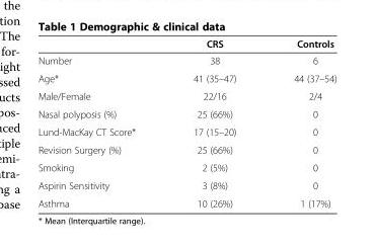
<table><thead><tr><td></td><td>CRS</td><td>Controls</td></tr></thead><tbody><tr><td>Number</td><td>38</td><td>6</td></tr><tr><td>Age*</td><td>41 (35–47)</td><td>44 (37–54)</td></tr><tr><td>Male/Female</td><td>22/16</td><td>2/4</td></tr><tr><td>Nasal polyposis (%)</td><td>25 (66%)</td><td>0</td></tr><tr><td>Lund-MacKay CT Score*</td><td>17 (15–20)</td><td>0</td></tr><tr><td>Revision Surgery (%)</td><td>25 (66%)</td><td>0</td></tr><tr><td>Smoking</td><td>2 (5%)</td><td>0</td></tr><tr><td>Aspirin Sensitivity</td><td>3 (8%)</td><td>0</td></tr><tr><td>Asthma</td><td>10 (26%)</td><td>1 (17%)</td></tr></tbody></table>